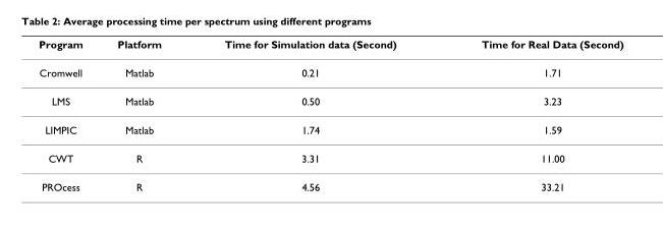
<table><thead><tr><td>Program</td><td>Platform</td><td>Time for Simulation data (Second)</td><td>Time for Real Data (Second)</td></tr></thead><tbody><tr><td>Cromwell</td><td>Matlab</td><td>0.21</td><td>1.71</td></tr><tr><td>LMS</td><td>Matlab</td><td>0.50</td><td>3.23</td></tr><tr><td>LIMPIC</td><td>Matlab</td><td>1.74</td><td>1.59</td></tr><tr><td>CWT</td><td>R</td><td>3.31</td><td>11.00</td></tr><tr><td>PROcess</td><td>R</td><td>4.56</td><td>33.21</td></tr></tbody></table>